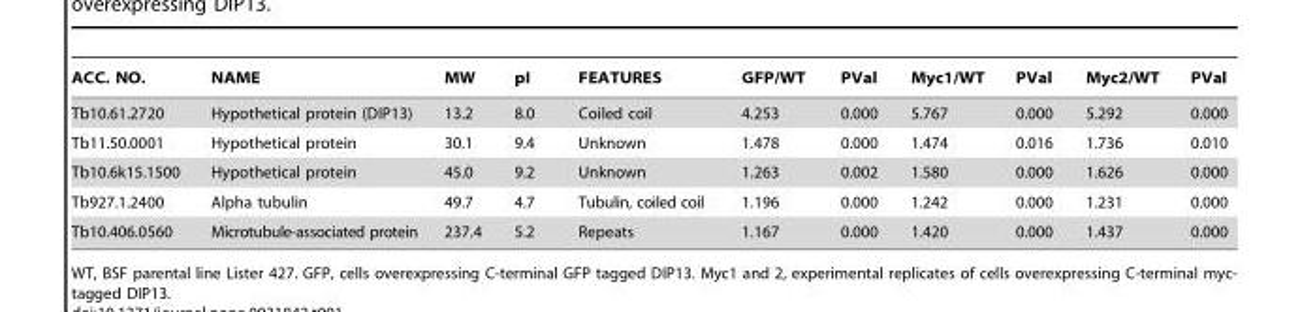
<table><thead><tr><td>ACC. NO.</td><td>NAME</td><td>MW</td><td>pI</td><td>FEATURES</td><td>GFP/WT</td><td>PVal</td><td>Myc1/WT</td><td>PVal</td><td>Myc2/WT</td><td>PVal</td></tr></thead><tbody><tr><td>Tb10.61.2720</td><td>Hypothetical protein (DIP13)</td><td>13.2</td><td>8.0</td><td>Coiled coil</td><td>4.253</td><td>0.000</td><td>5.767</td><td>0.000</td><td>5.292</td><td>0.000</td></tr><tr><td>Tb11.50.0001</td><td>Hypothetical protein</td><td>30.1</td><td>9.4</td><td>Unknown</td><td>1.478</td><td>0.000</td><td>1.474</td><td>0.016</td><td>1.736</td><td>0.010</td></tr><tr><td>Tb10.6k15.1500</td><td>Hypothetical protein</td><td>45.0</td><td>9.2</td><td>Unknown</td><td>1.263</td><td>0.002</td><td>1.580</td><td>0.000</td><td>1.626</td><td>0.000</td></tr><tr><td>Tb927.1.2400</td><td>Alpha tubulin</td><td>49.7</td><td>4.7</td><td>Tubulin, coiled coil</td><td>1.196</td><td>0.000</td><td>1.242</td><td>0.000</td><td>1.231</td><td>0.000</td></tr><tr><td>Tb10.406.0560</td><td>Microtubule-associated protein</td><td>237.4</td><td>5.2</td><td>Repeats</td><td>1.167</td><td>0.000</td><td>1.420</td><td>0.000</td><td>1.437</td><td>0.000</td></tr></tbody></table>